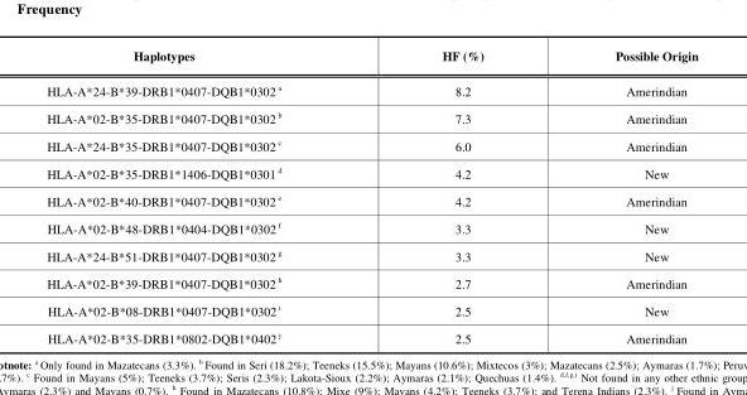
<table><thead><tr><td>Haplotypes</td><td>HF (%)</td><td>Possible Origin</td></tr></thead><tbody><tr><td>HLA-A*24-B*39-DRB1*0407-DQB1*0302 <sup>a</sup></td><td>8.2</td><td>Amerindian</td></tr><tr><td>HLA-A*02-B*35-DRB1*0407-DQB1*0302 <sup>b</sup></td><td>7.3</td><td>Amerindian</td></tr><tr><td>HLA-A*24-B*35-DRB1*0407-DQB1*0302 <sup>c</sup></td><td>6.0</td><td>Amerindian</td></tr><tr><td>HLA-A*02-B*35-DRB1*1406-DQB1*0301 <sup>d</sup></td><td>4.2</td><td>New</td></tr><tr><td>HLA-A*02-B*40-DRB1*0407-DQB1*0302 <sup>e</sup></td><td>4.2</td><td>Amerindian</td></tr><tr><td>HLA-A*02-B*48-DRB1*0404-DQB1*0302 <sup>f</sup></td><td>3.3</td><td>New</td></tr><tr><td>HLA-A*24-B*51-DRB1*0407-DQB1*0302 <sup>g</sup></td><td>3.3</td><td>New</td></tr><tr><td>HLA-A*02-B*39-DRB1*0407-DQB1*0302 <sup>h</sup></td><td>2.7</td><td>Amerindian</td></tr><tr><td>HLA-A*02-B*08-DRB1*0407-DQB1*0302 <sup>i</sup></td><td>2.5</td><td>New</td></tr><tr><td>HLA-A*02-B*35-DRB1*0802-DQB1*0402 <sup>j</sup></td><td>2.5</td><td>Amerindian</td></tr></tbody></table>